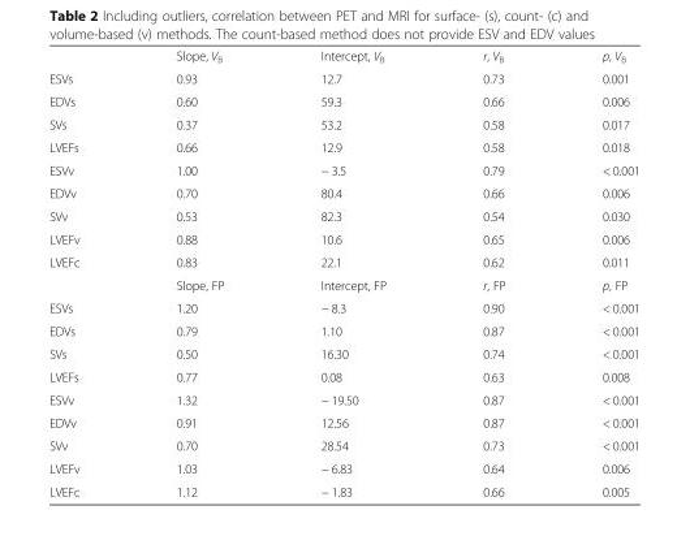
<table><thead><tr><td></td><td>Slope, V<sub>B</sub></td><td>Intercept, V<sub>B</sub></td><td>r, V<sub>B</sub></td><td>p, V<sub>B</sub></td></tr></thead><tbody><tr><td>ESVs</td><td>0.93</td><td>12.7</td><td>0.73</td><td>0.001</td></tr><tr><td>EDVs</td><td>0.60</td><td>59.3</td><td>0.66</td><td>0.006</td></tr><tr><td>SVs</td><td>0.37</td><td>53.2</td><td>0.58</td><td>0.017</td></tr><tr><td>LVEFs</td><td>0.66</td><td>12.9</td><td>0.58</td><td>0.018</td></tr><tr><td>ESVv</td><td>1.00</td><td>− 3.5</td><td>0.79</td><td>&lt; 0.001</td></tr><tr><td>EDVv</td><td>0.70</td><td>80.4</td><td>0.66</td><td>0.006</td></tr><tr><td>SVv</td><td>0.53</td><td>82.3</td><td>0.54</td><td>0.030</td></tr><tr><td>LVEFv</td><td>0.88</td><td>10.6</td><td>0.65</td><td>0.006</td></tr><tr><td rowspan="2">LVEFc</td><td>0.83</td><td>22.1</td><td>0.62</td><td>0.011</td></tr><tr><td>Slope, FP</td><td>Intercept, FP</td><td>r, FP</td><td>p, FP</td></tr><tr><td>ESVs</td><td>1.20</td><td>− 8.3</td><td>0.90</td><td>&lt; 0.001</td></tr><tr><td>EDVs</td><td>0.79</td><td>1.10</td><td>0.87</td><td>&lt; 0.001</td></tr><tr><td>SVs</td><td>0.50</td><td>16.30</td><td>0.74</td><td>&lt; 0.001</td></tr><tr><td>LVEFs</td><td>0.77</td><td>0.08</td><td>0.63</td><td>0.008</td></tr><tr><td>ESVv</td><td>1.32</td><td>− 19.50</td><td>0.87</td><td>&lt; 0.001</td></tr><tr><td>EDVv</td><td>0.91</td><td>12.56</td><td>0.87</td><td>&lt; 0.001</td></tr><tr><td>SVv</td><td>0.70</td><td>28.54</td><td>0.73</td><td>&lt; 0.001</td></tr><tr><td>LVEFv</td><td>1.03</td><td>− 6.83</td><td>0.64</td><td>0.006</td></tr><tr><td>LVEFc</td><td>1.12</td><td>− 1.83</td><td>0.66</td><td>0.005</td></tr></tbody></table>